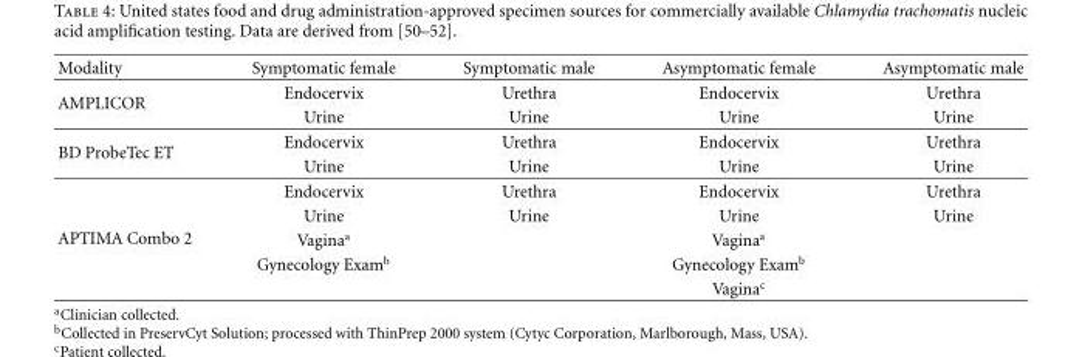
<table><thead><tr><td>Modality</td><td>Symptomatic female</td><td>Symptomatic male</td><td>Asymptomatic female</td><td>Asymptomatic male</td></tr></thead><tbody><tr><td rowspan="2">AMPLICOR</td><td>Endocervix</td><td>Urethra</td><td>Endocervix</td><td>Urethra</td></tr><tr><td>Urine</td><td>Urine</td><td>Urine</td><td>Urine</td></tr><tr><td rowspan="2">BD ProbeTec ET</td><td>Endocervix</td><td>Urethra</td><td>Endocervix</td><td>Urethra</td></tr><tr><td>Urine</td><td>Urine</td><td>Urine</td><td>Urine</td></tr><tr><td rowspan="5">APTIMA Combo 2</td><td>Endocervix</td><td>Urethra</td><td>Endocervix</td><td>Urethra</td></tr><tr><td>Urine</td><td>Urine</td><td>Urine</td><td>Urine</td></tr><tr><td>Vagina<sup>a</sup></td><td></td><td>Vagina<sup>a</sup></td><td></td></tr><tr><td>Gynecology Exam<sup>b</sup></td><td></td><td>Gynecology Exam<sup>b</sup></td><td></td></tr><tr><td></td><td></td><td>Vagina<sup>c</sup></td><td></td></tr></tbody></table>